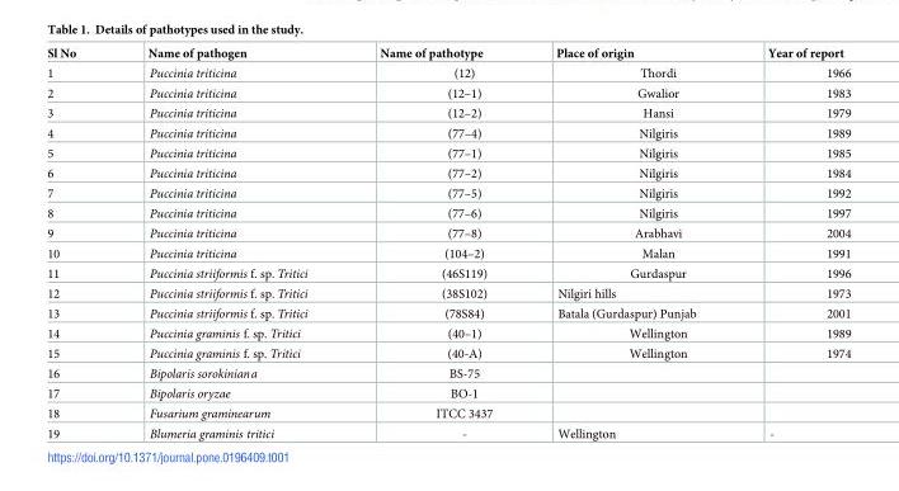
<table><thead><tr><td>Sl No</td><td>Name of pathogen</td><td>Name of pathotype</td><td>Place of origin</td><td>Year of report</td></tr></thead><tbody><tr><td>1</td><td>Puccinia triticina</td><td>(12)</td><td>Thordi</td><td>1966</td></tr><tr><td>2</td><td>Puccinia triticina</td><td>(12–1)</td><td>Gwalior</td><td>1983</td></tr><tr><td>3</td><td>Puccinia triticina</td><td>(12–2)</td><td>Hansi</td><td>1979</td></tr><tr><td>4</td><td>Puccinia triticina</td><td>(77–4)</td><td>Nilgiris</td><td>1989</td></tr><tr><td>5</td><td>Puccinia triticina</td><td>(77–1)</td><td>Nilgiris</td><td>1985</td></tr><tr><td>6</td><td>Puccinia triticina</td><td>(77–2)</td><td>Nilgiris</td><td>1984</td></tr><tr><td>7</td><td>Puccinia triticina</td><td>(77–5)</td><td>Nilgiris</td><td>1992</td></tr><tr><td>8</td><td>Puccinia triticina</td><td>(77–6)</td><td>Nilgiris</td><td>1997</td></tr><tr><td>9</td><td>Puccinia triticina</td><td>(77–8)</td><td>Arabhavi</td><td>2004</td></tr><tr><td>10</td><td>Puccinia triticina</td><td>(104–2)</td><td>Malan</td><td>1991</td></tr><tr><td>11</td><td>Puccinia striiformis f. sp. Tritici</td><td>(46S119)</td><td>Gurdaspur</td><td>1996</td></tr><tr><td>12</td><td>Puccinia striiformis f. sp. Tritici</td><td>(38S102)</td><td>Nilgiri hills</td><td>1973</td></tr><tr><td>13</td><td>Puccinia striiformis f. sp. Tritici</td><td>(78S84)</td><td>Batala (Gurdaspur) Punjab</td><td>2001</td></tr><tr><td>14</td><td>Puccinia graminis f. sp. Tritici</td><td>(40–1)</td><td>Wellington</td><td>1989</td></tr><tr><td>15</td><td>Puccinia graminis f. sp. Tritici</td><td>(40-A)</td><td>Wellington</td><td>1974</td></tr><tr><td>16</td><td>Bipolaris sorokiniana</td><td>BS-75</td><td></td><td></td></tr><tr><td>17</td><td>Bipolaris oryzae</td><td>BO-1</td><td></td><td></td></tr><tr><td>18</td><td>Fusarium graminearum</td><td>ITCC 3437</td><td></td><td></td></tr><tr><td>19</td><td>Blumeria graminis tritici</td><td>-</td><td>Wellington</td><td>-</td></tr></tbody></table>